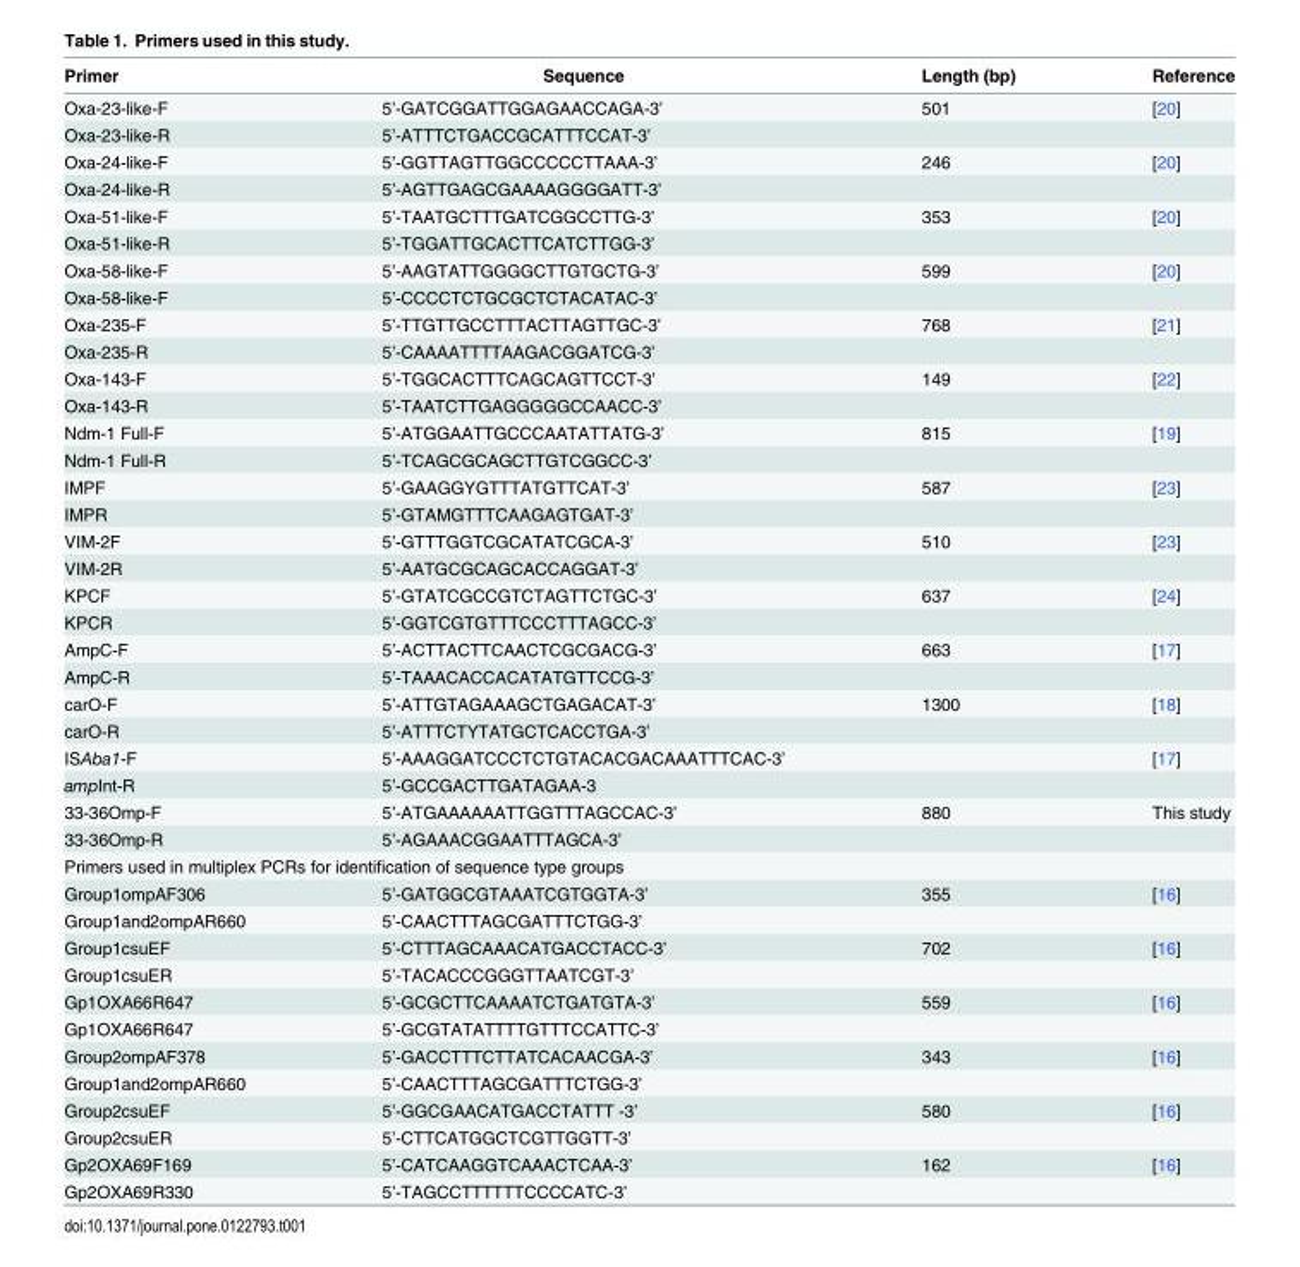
<table><thead><tr><td>Primer</td><td>Sequence</td><td>Length (bp)</td><td>Reference</td></tr></thead><tbody><tr><td>Oxa-23-like-F</td><td>5’-GATCGGATTGGAGAACCAGA-3’</td><td>501</td><td>[20]</td></tr><tr><td>Oxa-23-like-R</td><td>5’-ATTTCTGACCGCATTTCCAT-3’</td><td></td><td></td></tr><tr><td>Oxa-24-like-F</td><td>5’-GGTTAGTTGGCCCCCTTAAA-3’</td><td>246</td><td>[20]</td></tr><tr><td>Oxa-24-like-R</td><td>5’-AGTTGAGCGAAAAGGGGATT-3’</td><td></td><td></td></tr><tr><td>Oxa-51-like-F</td><td>5’-TAATGCTTTGATCGGCCTTG-3’</td><td>353</td><td>[20]</td></tr><tr><td>Oxa-51-like-R</td><td>5’-TGGATTGCACTTCATCTTGG-3’</td><td></td><td></td></tr><tr><td>Oxa-58-like-F</td><td>5’-AAGTATTGGGGCTTGTGCTG-3’</td><td>599</td><td>[20]</td></tr><tr><td>Oxa-58-like-F</td><td>5’-CCCCTCTGCGCTCTACATAC-3’</td><td></td><td></td></tr><tr><td>Oxa-235-F</td><td>5’-TTGTTGCCTTTACTTAGTTGC-3’</td><td>768</td><td>[21]</td></tr><tr><td>Oxa-235-R</td><td>5’-CAAAATTTTAAGACGGATCG-3’</td><td></td><td></td></tr><tr><td>Oxa-143-F</td><td>5’-TGGCACTTTCAGCAGTTCCT-3’</td><td>149</td><td>[22]</td></tr><tr><td>Oxa-143-R</td><td>5’-TAATCTTGAGGGGGCCAACC-3’</td><td></td><td></td></tr><tr><td>Ndm-1 Full-F</td><td>5’-ATGGAATTGCCCAATATTATG-3’</td><td>815</td><td>[19]</td></tr><tr><td>Ndm-1 Full-R</td><td>5’-TCAGCGCAGCTTGTCGGCC-3’</td><td></td><td></td></tr><tr><td>IMPF</td><td>5’-GAAGGYGTTTATGTTCAT-3’</td><td>587</td><td>[23]</td></tr><tr><td>IMPR</td><td>5’-GTAMGTTTCAAGAGTGAT-3’</td><td></td><td></td></tr><tr><td>VIM-2F</td><td>5’-GTTTGGTCGCATATCGCA-3’</td><td>510</td><td>[23]</td></tr><tr><td>VIM-2R</td><td>5’-AATGCGCAGCACCAGGAT-3’</td><td></td><td></td></tr><tr><td>KPCF</td><td>5’-GTATCGCCGTCTAGTTCTGC-3’</td><td>637</td><td>[24]</td></tr><tr><td>KPCR</td><td>5’-GGTCGTGTTTCCCTTTAGCC-3’</td><td></td><td></td></tr><tr><td>AmpC-F</td><td>5’-ACTTACTTCAACTCGCGACG-3’</td><td>663</td><td>[17]</td></tr><tr><td>AmpC-R</td><td>5’-TAAACACCACATATGTTCCG-3’</td><td></td><td></td></tr><tr><td>carO-F</td><td>5’-ATTGTAGAAAGCTGAGACAT-3’</td><td>1300</td><td>[18]</td></tr><tr><td>carO-R</td><td>5’-ATTTCTYTATGCTCACCTGA-3’</td><td></td><td></td></tr><tr><td>ISAba1-F</td><td>5’-AAAGGATCCCTCTGTACACGACAAATTTCAC-3’</td><td></td><td>[17]</td></tr><tr><td>ampInt-R</td><td>5’-GCCGACTTGATAGAA-3</td><td></td><td></td></tr><tr><td>33-36Omp-F</td><td>5’-ATGAAAAAATTGGTTTAGCCAC-3’</td><td>880</td><td>This study</td></tr><tr><td>33-36Omp-R</td><td>5’-AGAAACGGAATTTAGCA-3’</td><td></td><td></td></tr><tr><td colspan="4">Primers used in multiplex PCRs for identification of sequence type groups</td></tr><tr><td>Group1ompAF306</td><td>5’-GATGGCGTAAATCGTGGTA-3’</td><td>355</td><td>[16]</td></tr><tr><td>Group1and2ompAR660</td><td>5’-CAACTTTAGCGATTTCTGG-3’</td><td></td><td></td></tr><tr><td>Group1csuEF</td><td>5’-CTTTAGCAAACATGACCTACC-3’</td><td>702</td><td>[16]</td></tr><tr><td>Group1csuER</td><td>5’-TACACCCGGGTTAATCGT-3’</td><td></td><td></td></tr><tr><td>Gp1OXA66R647</td><td>5’-GCGCTTCAAAATCTGATGTA-3’</td><td>559</td><td>[16]</td></tr><tr><td>Gp1OXA66R647</td><td>5’-GCGTATATTTTGTTTCCATTC-3’</td><td></td><td></td></tr><tr><td>Group2ompAF378</td><td>5’-GACCTTTCTTATCACAACGA-3’</td><td>343</td><td>[16]</td></tr><tr><td>Group1and2ompAR660</td><td>5’-CAACTTTAGCGATTTCTGG-3’</td><td></td><td></td></tr><tr><td>Group2csuEF</td><td>5’-GGCGAACATGACCTATTT -3’</td><td>580</td><td>[16]</td></tr><tr><td>Group2csuER</td><td>5’-CTTCATGGCTCGTTGGTT-3’</td><td></td><td></td></tr><tr><td>Gp2OXA69F169</td><td>5’-CATCAAGGTCAAACTCAA-3’</td><td>162</td><td>[16]</td></tr><tr><td>Gp2OXA69R330</td><td>5’-TAGCCTTTTTTCCCCATC-3’</td><td></td><td></td></tr></tbody></table>